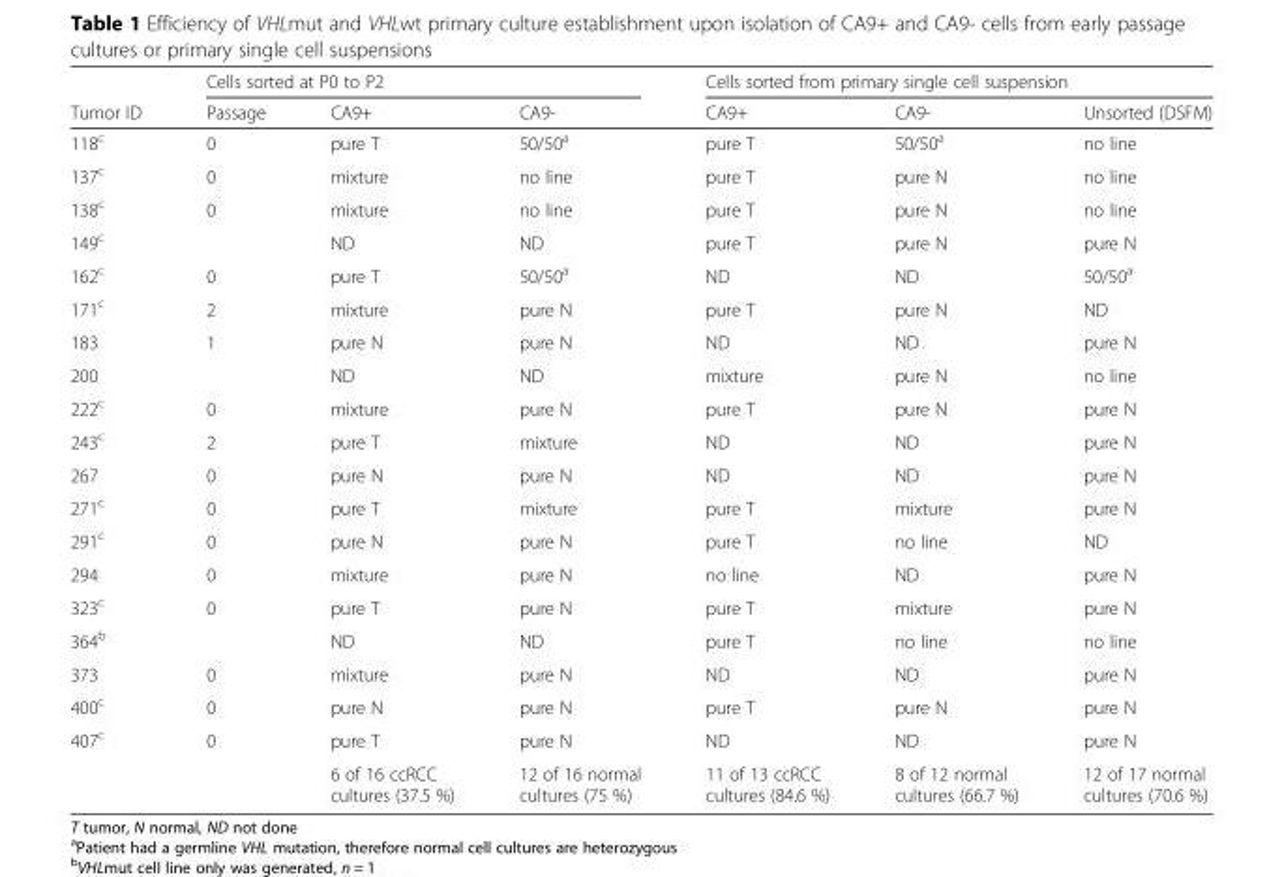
<table><thead><tr><td rowspan="2">Tumor ID</td><td colspan="3">Cells sorted at P0 to P2</td><td colspan="3">Cells sorted from primary single cell suspension</td></tr><tr><td>Passage</td><td>CA9+</td><td>CA9-</td><td>CA9+</td><td>CA9-</td><td>Unsorted (DSFM)</td></tr></thead><tbody><tr><td>118<sup>c</sup></td><td>0</td><td>pure T</td><td>50/50<sup>a</sup></td><td>pure T</td><td>50/50<sup>a</sup></td><td>no line</td></tr><tr><td>137<sup>c</sup></td><td>0</td><td>mixture</td><td>no line</td><td>pure T</td><td>pure N</td><td>no line</td></tr><tr><td>138<sup>c</sup></td><td>0</td><td>mixture</td><td>no line</td><td>pure T</td><td>pure N</td><td>no line</td></tr><tr><td>149<sup>c</sup></td><td></td><td>ND</td><td>ND</td><td>pure T</td><td>pure N</td><td>pure N</td></tr><tr><td>162<sup>c</sup></td><td>0</td><td>pure T</td><td>50/50<sup>a</sup></td><td>ND</td><td>ND</td><td>50/50<sup>a</sup></td></tr><tr><td>171<sup>c</sup></td><td>2</td><td>mixture</td><td>pure N</td><td>pure T</td><td>pure N</td><td>ND</td></tr><tr><td>183</td><td>1</td><td>pure N</td><td>pure N</td><td>ND</td><td>ND</td><td>pure N</td></tr><tr><td>200</td><td></td><td>ND</td><td>ND</td><td>mixture</td><td>pure N</td><td>no line</td></tr><tr><td>222<sup>c</sup></td><td>0</td><td>mixture</td><td>pure N</td><td>pure T</td><td>pure N</td><td>pure N</td></tr><tr><td>243<sup>c</sup></td><td>2</td><td>pure T</td><td>mixture</td><td>ND</td><td>ND</td><td>pure N</td></tr><tr><td>267</td><td>0</td><td>pure N</td><td>pure N</td><td>ND</td><td>ND</td><td>pure N</td></tr><tr><td>271<sup>c</sup></td><td>0</td><td>pure T</td><td>mixture</td><td>pure T</td><td>mixture</td><td>pure N</td></tr><tr><td>291<sup>c</sup></td><td>0</td><td>pure N</td><td>pure N</td><td>pure T</td><td>no line</td><td>ND</td></tr><tr><td>294</td><td>0</td><td>mixture</td><td>pure N</td><td>no line</td><td>ND</td><td>pure N</td></tr><tr><td>323<sup>c</sup></td><td>0</td><td>pure T</td><td>pure N</td><td>pure T</td><td>mixture</td><td>pure N</td></tr><tr><td>364<sup>b</sup></td><td></td><td>ND</td><td>ND</td><td>pure T</td><td>no line</td><td>no line</td></tr><tr><td>373</td><td>0</td><td>mixture</td><td>pure N</td><td>ND</td><td>ND</td><td>pure N</td></tr><tr><td>400<sup>c</sup></td><td>0</td><td>pure N</td><td>pure N</td><td>pure T</td><td>pure N</td><td>pure N</td></tr><tr><td rowspan="2">407<sup>c</sup></td><td>0</td><td>pure T</td><td>pure N</td><td>ND</td><td>ND</td><td>pure N</td></tr><tr><td></td><td>6 of 16 ccRCC cultures (37.5 %)</td><td>12 of 16 normal cultures (75 %)</td><td>11 of 13 ccRCC cultures (84.6 %)</td><td>8 of 12 normal cultures (66.7 %)</td><td>12 of 17 normal cultures (70.6 %)</td></tr></tbody></table>